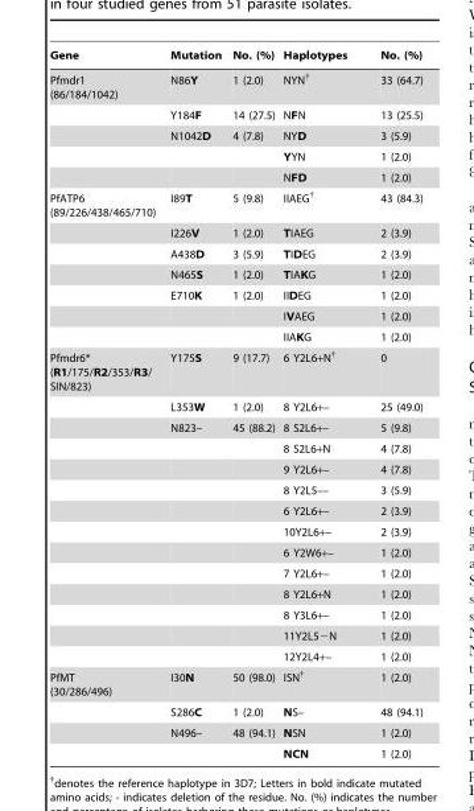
<table><thead><tr><td>Gene</td><td>Mutation</td><td>No. (%)</td><td>Haplotypes</td><td>No. (%)</td></tr></thead><tbody><tr><td rowspan="5">Pfmdr1 (86/184/1042)</td><td>N86Y</td><td>1 (2.0)</td><td>NYN†</td><td>33 (64.7)</td></tr><tr><td>Y184F</td><td>14 (27.5)</td><td>NFN</td><td>13 (25.5)</td></tr><tr><td>N1042D</td><td>4 (7.8)</td><td>NYD</td><td>3 (5.9)</td></tr><tr><td></td><td></td><td>YYN</td><td>1 (2.0)</td></tr><tr><td></td><td></td><td>NFD</td><td>1 (2.0)</td></tr><tr><td rowspan="7">PfATP6 (89/226/438/465/710)</td><td>I89T</td><td>5 (9.8)</td><td>IIAEG†</td><td>43 (84.3)</td></tr><tr><td>I226V</td><td>1 (2.0)</td><td>TIAEG</td><td>2 (3.9)</td></tr><tr><td>A438D</td><td>3 (5.9)</td><td>TIDEG</td><td>2 (3.9)</td></tr><tr><td>N465S</td><td>1 (2.0)</td><td>TIAKG</td><td>1 (2.0)</td></tr><tr><td>E710K</td><td>1 (2.0)</td><td>IIDEG</td><td>1 (2.0)</td></tr><tr><td></td><td></td><td>IVAEG</td><td>1 (2.0)</td></tr><tr><td></td><td></td><td>IIAKG</td><td>1 (2.0)</td></tr><tr><td rowspan="14">Pfmdr6* (R1/175/R2/353/R3/ SIN/823)</td><td>Y175S</td><td>9 (17.7)</td><td>6 Y2L6+N†</td><td>0</td></tr><tr><td>L353W</td><td>1 (2.0)</td><td>8 Y2L6+–</td><td>25 (49.0)</td></tr><tr><td>N823–</td><td>45 (88.2)</td><td>8 S2L6+–</td><td>5 (9.8)</td></tr><tr><td></td><td></td><td>8 S2L6+N</td><td>4 (7.8)</td></tr><tr><td></td><td></td><td>9 Y2L6+–</td><td>4 (7.8)</td></tr><tr><td></td><td></td><td>8 Y2L5––</td><td>3 (5.9)</td></tr><tr><td></td><td></td><td>6 Y2L6+–</td><td>2 (3.9)</td></tr><tr><td></td><td></td><td>10Y2L6+–</td><td>2 (3.9)</td></tr><tr><td></td><td></td><td>6 Y2W6+–</td><td>1 (2.0)</td></tr><tr><td></td><td></td><td>7 Y2L6+–</td><td>1 (2.0)</td></tr><tr><td></td><td></td><td>8 Y2L6+N</td><td>1 (2.0)</td></tr><tr><td></td><td></td><td>8 Y3L6+–</td><td>1 (2.0)</td></tr><tr><td></td><td></td><td>11Y2L5−N</td><td>1 (2.0)</td></tr><tr><td></td><td></td><td>12Y2L4+–</td><td>1 (2.0)</td></tr><tr><td rowspan="4">PfMT (30/286/496)</td><td>I30N</td><td>50 (98.0)</td><td>ISN†</td><td>1 (2.0)</td></tr><tr><td>S286C</td><td>1 (2.0)</td><td>NS–</td><td>48 (94.1)</td></tr><tr><td>N496–</td><td>48 (94.1)</td><td>NSN</td><td>1 (2.0)</td></tr><tr><td></td><td></td><td>NCN</td><td>1 (2.0)</td></tr></tbody></table>